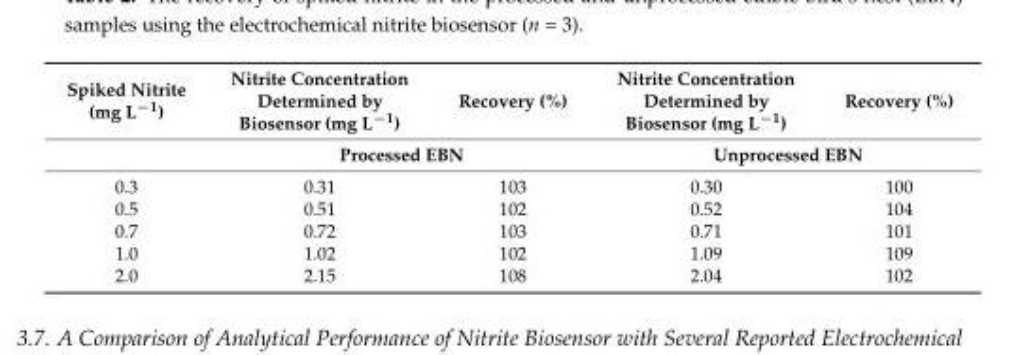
<table><thead><tr><td rowspan="2">Spiked Nitrite (mg L<sup>−1</sup>)</td><td>Nitrite Concentration Determined by Biosensor (mg L<sup>−1</sup>)</td><td>Recovery (%)</td><td>Nitrite Concentration Determined by Biosensor (mg L<sup>−1</sup>)</td><td>Recovery (%)</td></tr><tr><td colspan="2">Processed EBN</td><td colspan="2">Unprocessed EBN</td></tr></thead><tbody><tr><td>0.3</td><td>0.31</td><td>103</td><td>0.30</td><td>100</td></tr><tr><td>0.5</td><td>0.51</td><td>102</td><td>0.52</td><td>104</td></tr><tr><td>0.7</td><td>0.72</td><td>103</td><td>0.71</td><td>101</td></tr><tr><td>1.0</td><td>1.02</td><td>102</td><td>1.09</td><td>109</td></tr><tr><td>2.0</td><td>2.15</td><td>108</td><td>2.04</td><td>102</td></tr></tbody></table>